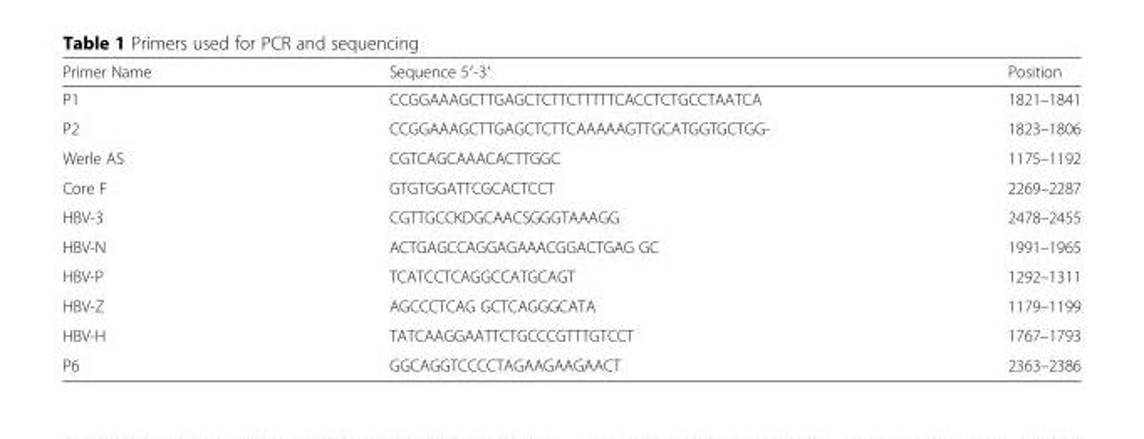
<table><thead><tr><td>Primer Name</td><td>Sequence 5′-3′</td><td>Position</td></tr></thead><tbody><tr><td>P1</td><td>CCGGAAAGCTTGAGCTCTTCTTTTTCACCTCTGCCTAATCA</td><td>1821–1841</td></tr><tr><td>P2</td><td>CCGGAAAGCTTGAGCTCTTCAAAAAGTTGCATGGTGCTGG-</td><td>1823–1806</td></tr><tr><td>Werle AS</td><td>CGTCAGCAAACACTTGGC</td><td>1175–1192</td></tr><tr><td>Core F</td><td>GTGTGGATTCGCACTCCT</td><td>2269–2287</td></tr><tr><td>HBV-3</td><td>CGTTGCCKDGCAACSGGGTAAAGG</td><td>2478–2455</td></tr><tr><td>HBV-N</td><td>ACTGAGCCAGGAGAAACGGACTGAG GC</td><td>1991–1965</td></tr><tr><td>HBV-P</td><td>TCATCCTCAGGCCATGCAGT</td><td>1292–1311</td></tr><tr><td>HBV-Z</td><td>AGCCCTCAG GCTCAGGGCATA</td><td>1179–1199</td></tr><tr><td>HBV-H</td><td>TATCAAGGAATTCTGCCCGTTTGTCCT</td><td>1767–1793</td></tr><tr><td>P6</td><td>GGCAGGTCCCCTAGAAGAAGAACT</td><td>2363–2386</td></tr></tbody></table>